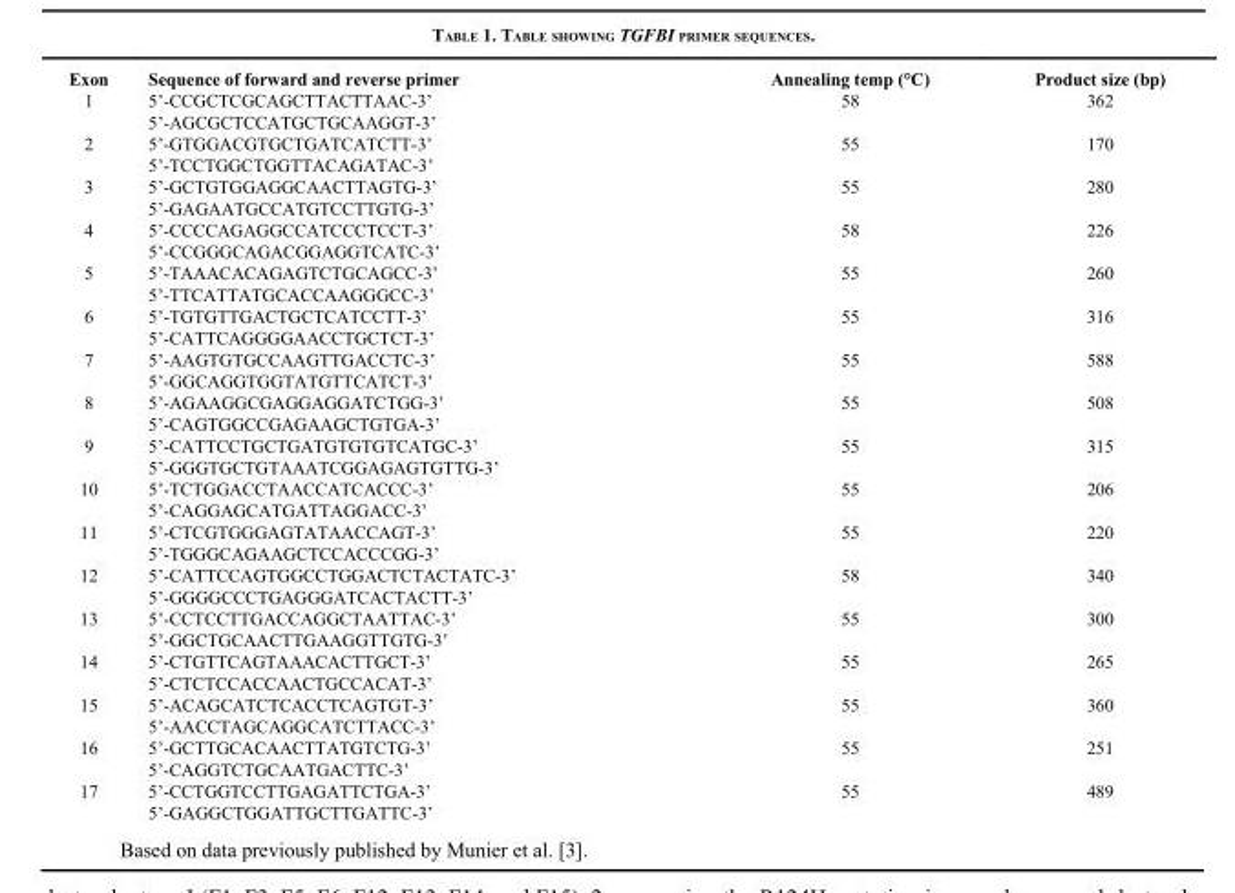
<table><thead><tr><td>Exon</td><td>Sequence of forward and reverse primer</td><td>Annealing temp (°C)</td><td>Product size (bp)</td></tr></thead><tbody><tr><td rowspan="2">1</td><td>5’-CCGCTCGCAGCTTACTTAAC-3’</td><td>58</td><td>362</td></tr><tr><td>5’-AGCGCTCCATGCTGCAAGGT-3’</td><td></td><td></td></tr><tr><td rowspan="2">2</td><td>5’-GTGGACGTGCTGATCATCTT-3’</td><td>55</td><td>170</td></tr><tr><td>5’-TCCTGGCTGGTTACAGATAC-3’</td><td></td><td></td></tr><tr><td rowspan="2">3</td><td>5’-GCTGTGGAGGCAACTTAGTG-3’</td><td>55</td><td>280</td></tr><tr><td>5’-GAGAATGCCATGTCCTTGTG-3’</td><td></td><td></td></tr><tr><td rowspan="2">4</td><td>5’-CCCCAGAGGCCATCCCTCCT-3’</td><td>58</td><td>226</td></tr><tr><td>5’-CCGGGCAGACGGAGGTCATC-3’</td><td></td><td></td></tr><tr><td rowspan="2">5</td><td>5’-TAAACACAGAGTCTGCAGCC-3’</td><td>55</td><td>260</td></tr><tr><td>5’-TTCATTATGCACCAAGGGCC-3’</td><td></td><td></td></tr><tr><td rowspan="2">6</td><td>5’-TGTGTTGACTGCTCATCCTT-3’</td><td>55</td><td>316</td></tr><tr><td>5’-CATTCAGGGGAACCTGCTCT-3’</td><td></td><td></td></tr><tr><td rowspan="2">7</td><td>5’-AAGTGTGCCAAGTTGACCTC-3’</td><td>55</td><td>588</td></tr><tr><td>5’-GGCAGGTGGTATGTTCATCT-3’</td><td></td><td></td></tr><tr><td rowspan="2">8</td><td>5’-AGAAGGCGAGGAGGATCTGG-3’</td><td>55</td><td>508</td></tr><tr><td>5’-CAGTGGCCGAGAAGCTGTGA-3’</td><td></td><td></td></tr><tr><td rowspan="2">9</td><td>5’-CATTCCTGCTGATGTGTGTCATGC-3’</td><td>55</td><td>315</td></tr><tr><td>5’-GGGTGCTGTAAATCGGAGAGTGTTG-3’</td><td></td><td></td></tr><tr><td rowspan="2">10</td><td>5’-TCTGGACCTAACCATCACCC-3’</td><td>55</td><td>206</td></tr><tr><td>5’-CAGGAGCATGATTAGGACC-3’</td><td></td><td></td></tr><tr><td rowspan="2">11</td><td>5’-CTCGTGGGAGTATAACCAGT-3’</td><td>55</td><td>220</td></tr><tr><td>5’-TGGGCAGAAGCTCCACCCGG-3’</td><td></td><td></td></tr><tr><td rowspan="2">12</td><td>5’-CATTCCAGTGGCCTGGACTCTACTATC-3’</td><td>58</td><td>340</td></tr><tr><td>5’-GGGGCCCTGAGGGATCACTACTT-3’</td><td></td><td></td></tr><tr><td rowspan="2">13</td><td>5’-CCTCCTTGACCAGGCTAATTAC-3’</td><td>55</td><td>300</td></tr><tr><td>5’-GGCTGCAACTTGAAGGTTGTG-3’</td><td></td><td></td></tr><tr><td rowspan="2">14</td><td>5’-CTGTTCAGTAAACACTTGCT-3’</td><td>55</td><td>265</td></tr><tr><td>5’-CTCTCCACCAACTGCCACAT-3’</td><td></td><td></td></tr><tr><td rowspan="2">15</td><td>5’-ACAGCATCTCACCTCAGTGT-3’</td><td>55</td><td>360</td></tr><tr><td>5’-AACCTAGCAGGCATCTTACC-3’</td><td></td><td></td></tr><tr><td rowspan="2">16</td><td>5’-GCTTGCACAACTTATGTCTG-3’</td><td>55</td><td>251</td></tr><tr><td>5’-CAGGTCTGCAATGACTTC-3’</td><td></td><td></td></tr><tr><td rowspan="2">17</td><td>5’-CCTGGTCCTTGAGATTCTGA-3’</td><td>55</td><td>489</td></tr><tr><td>5’-GAGGCTGGATTGCTTGATTC-3’</td><td></td><td></td></tr></tbody></table>